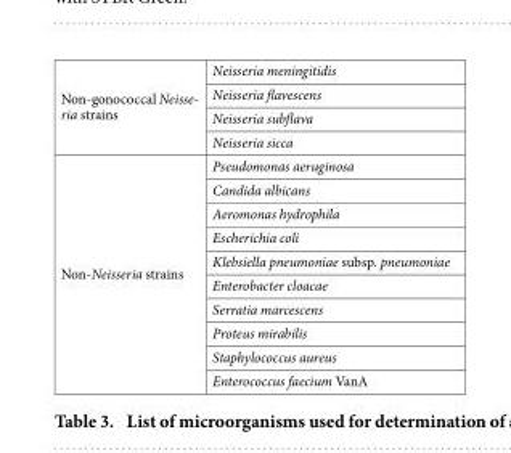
<table><tbody><tr><td rowspan="4">Non-gonococcal Neisse- ria strains</td><td>Neisseria meningitidis</td></tr><tr><td>Neisseria flavescens</td></tr><tr><td>Neisseria subflava</td></tr><tr><td>Neisseria sicca</td></tr><tr><td rowspan="10">Non-Neisseria strains</td><td>Pseudomonas aeruginosa</td></tr><tr><td>Candida albicans</td></tr><tr><td>Aeromonas hydrophila</td></tr><tr><td>Escherichia coli</td></tr><tr><td>Klebsiella pneumoniae subsp. pneumoniae</td></tr><tr><td>Enterobacter cloacae</td></tr><tr><td>Serratia marcescens</td></tr><tr><td>Proteus mirabilis</td></tr><tr><td>Staphylococcus aureus</td></tr><tr><td>Enterococcus faecium VanA</td></tr></tbody></table>